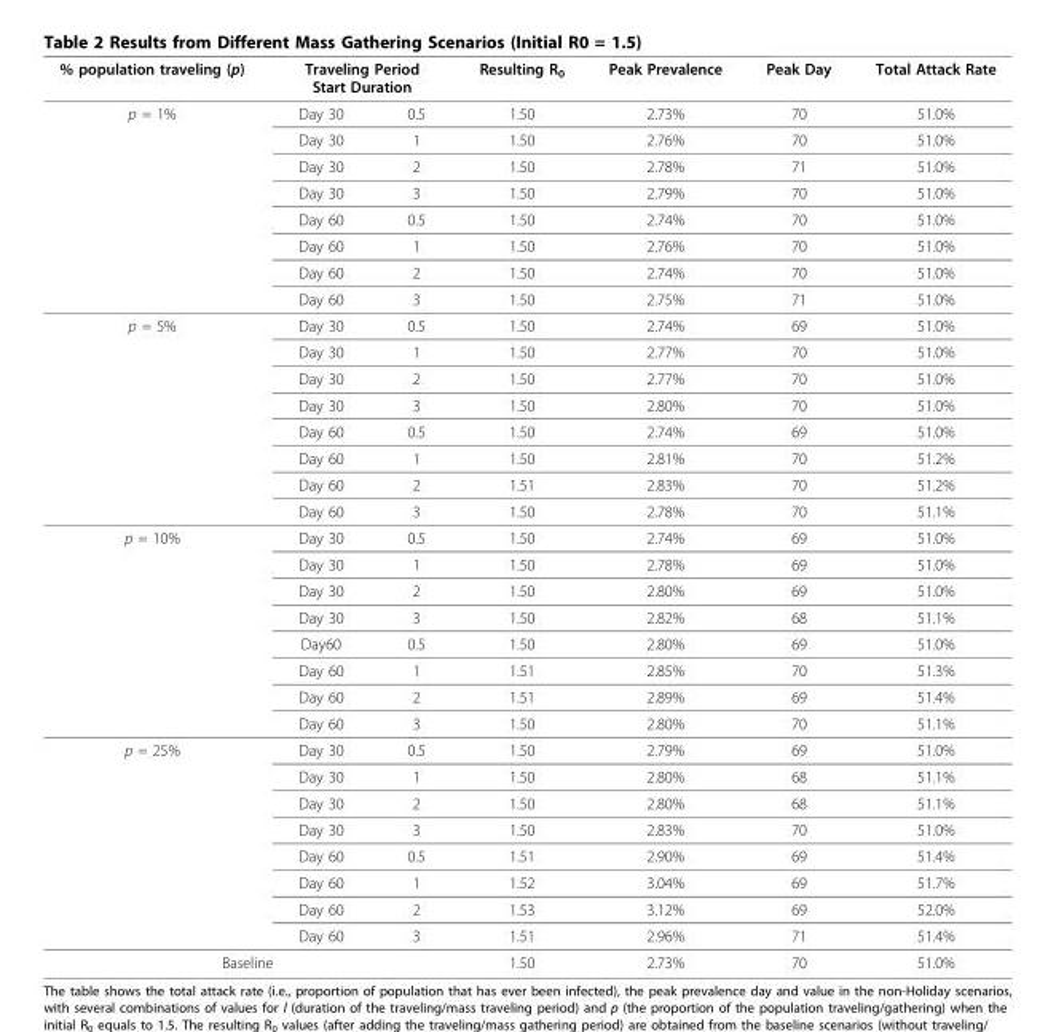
<table><thead><tr><td rowspan="2">% population traveling (p) p = 1%</td><td colspan="2">Traveling Period Start Duration</td><td rowspan="2">Resulting R0 1.50</td><td rowspan="2">Peak Prevalence 2.73%</td><td rowspan="2">Peak Day 70</td><td rowspan="2">Total Attack Rate 51.0%</td></tr><tr><td>Day 30</td><td>0.5</td></tr></thead><tbody><tr><td></td><td>Day 30</td><td>1</td><td>1.50</td><td>2.76%</td><td>70</td><td>51.0%</td></tr><tr><td></td><td>Day 30</td><td>2</td><td>1.50</td><td>2.78%</td><td>71</td><td>51.0%</td></tr><tr><td></td><td>Day 30</td><td>3</td><td>1.50</td><td>2.79%</td><td>70</td><td>51.0%</td></tr><tr><td></td><td>Day 60</td><td>0.5</td><td>1.50</td><td>2.74%</td><td>70</td><td>51.0%</td></tr><tr><td></td><td>Day 60</td><td>1</td><td>1.50</td><td>2.76%</td><td>70</td><td>51.0%</td></tr><tr><td></td><td>Day 60</td><td>2</td><td>1.50</td><td>2.74%</td><td>70</td><td>51.0%</td></tr><tr><td></td><td>Day 60</td><td>3</td><td>1.50</td><td>2.75%</td><td>71</td><td>51.0%</td></tr><tr><td rowspan="8">p = 5%</td><td>Day 30</td><td>0.5</td><td>1.50</td><td>2.74%</td><td>69</td><td>51.0%</td></tr><tr><td>Day 30</td><td>1</td><td>1.50</td><td>2.77%</td><td>70</td><td>51.0%</td></tr><tr><td>Day 30</td><td>2</td><td>1.50</td><td>2.77%</td><td>70</td><td>51.0%</td></tr><tr><td>Day 30</td><td>3</td><td>1.50</td><td>2.80%</td><td>70</td><td>51.0%</td></tr><tr><td>Day 60</td><td>0.5</td><td>1.50</td><td>2.74%</td><td>69</td><td>51.0%</td></tr><tr><td>Day 60</td><td>1</td><td>1.50</td><td>2.81%</td><td>70</td><td>51.2%</td></tr><tr><td>Day 60</td><td>2</td><td>1.51</td><td>2.83%</td><td>70</td><td>51.2%</td></tr><tr><td>Day 60</td><td>3</td><td>1.50</td><td>2.78%</td><td>70</td><td>51.1%</td></tr><tr><td rowspan="8">p = 10%</td><td>Day 30</td><td>0.5</td><td>1.50</td><td>2.74%</td><td>69</td><td>51.0%</td></tr><tr><td>Day 30</td><td>1</td><td>1.50</td><td>2.78%</td><td>69</td><td>51.0%</td></tr><tr><td>Day 30</td><td>2</td><td>1.50</td><td>2.80%</td><td>69</td><td>51.0%</td></tr><tr><td>Day 30</td><td>3</td><td>1.50</td><td>2.82%</td><td>68</td><td>51.1%</td></tr><tr><td>Day60</td><td>0.5</td><td>1.50</td><td>2.80%</td><td>69</td><td>51.0%</td></tr><tr><td>Day 60</td><td>1</td><td>1.51</td><td>2.85%</td><td>70</td><td>51.3%</td></tr><tr><td>Day 60</td><td>2</td><td>1.51</td><td>2.89%</td><td>69</td><td>51.4%</td></tr><tr><td>Day 60</td><td>3</td><td>1.50</td><td>2.80%</td><td>70</td><td>51.1%</td></tr><tr><td rowspan="8">p = 25%</td><td>Day 30</td><td>0.5</td><td>1.50</td><td>2.79%</td><td>69</td><td>51.0%</td></tr><tr><td>Day 30</td><td>1</td><td>1.50</td><td>2.80%</td><td>68</td><td>51.1%</td></tr><tr><td>Day 30</td><td>2</td><td>1.50</td><td>2.80%</td><td>68</td><td>51.1%</td></tr><tr><td>Day 30</td><td>3</td><td>1.50</td><td>2.83%</td><td>70</td><td>51.0%</td></tr><tr><td>Day 60</td><td>0.5</td><td>1.51</td><td>2.90%</td><td>69</td><td>51.4%</td></tr><tr><td>Day 60</td><td>1</td><td>1.52</td><td>3.04%</td><td>69</td><td>51.7%</td></tr><tr><td>Day 60</td><td>2</td><td>1.53</td><td>3.12%</td><td>69</td><td>52.0%</td></tr><tr><td>Day 60</td><td>3</td><td>1.51</td><td>2.96%</td><td>71</td><td>51.4%</td></tr><tr><td colspan="3">Baseline</td><td>1.50</td><td>2.73%</td><td>70</td><td>51.0%</td></tr></tbody></table>